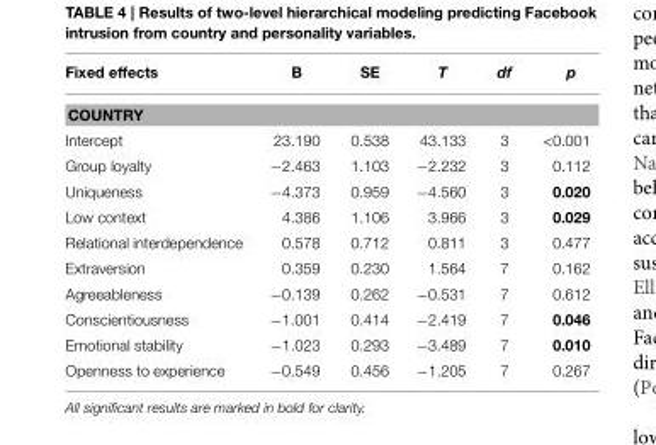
<table><thead><tr><td>Fixed effects</td><td>B</td><td>SE</td><td>T</td><td>df</td><td>p</td></tr></thead><tbody><tr><td colspan="6">COUNTRY</td></tr><tr><td>Intercept</td><td>23.190</td><td>0.538</td><td>43.133</td><td>3</td><td>&lt;0.001</td></tr><tr><td>Group loyalty</td><td>−2.463</td><td>1.103</td><td>−2.232</td><td>3</td><td>0.112</td></tr><tr><td>Uniqueness</td><td>−4.373</td><td>0.959</td><td>−4.560</td><td>3</td><td>0.020</td></tr><tr><td>Low context</td><td>4.386</td><td>1.106</td><td>3.966</td><td>3</td><td>0.029</td></tr><tr><td>Relational interdependence</td><td>0.578</td><td>0.712</td><td>0.811</td><td>3</td><td>0.477</td></tr><tr><td>Extraversion</td><td>0.359</td><td>0.230</td><td>1.564</td><td>7</td><td>0.162</td></tr><tr><td>Agreeableness</td><td>−0.139</td><td>0.262</td><td>−0.531</td><td>7</td><td>0.612</td></tr><tr><td>Conscientiousness</td><td>−1.001</td><td>0.414</td><td>−2.419</td><td>7</td><td>0.046</td></tr><tr><td>Emotional stability</td><td>−1.023</td><td>0.293</td><td>−3.489</td><td>7</td><td>0.010</td></tr><tr><td>Openness to experience</td><td>−0.549</td><td>0.456</td><td>−1.205</td><td>7</td><td>0.267</td></tr></tbody></table>